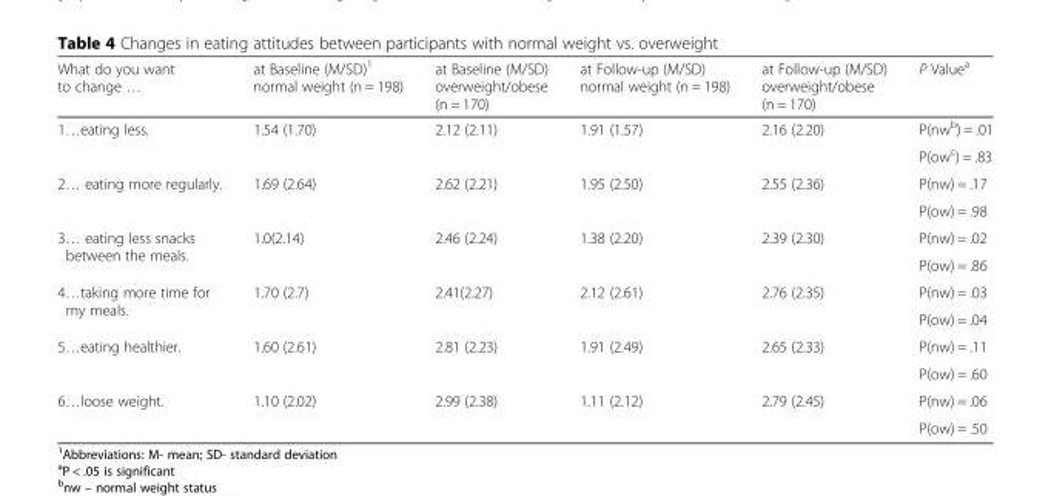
<table><thead><tr><td>What do you want to change …</td><td>at Baseline (M/SD)<sup>1</sup> normal weight (n = 198)</td><td>at Baseline (M/SD) overweight/obese (n = 170)</td><td>at Follow-up (M/SD) normal weight (n = 198)</td><td>at Follow-up (M/SD) overweight/obese (n = 170)</td><td>P Value<sup>a</sup></td></tr></thead><tbody><tr><td rowspan="2">1…eating less.</td><td rowspan="2">1.54 (1.70)</td><td rowspan="2">2.12 (2.11)</td><td rowspan="2">1.91 (1.57)</td><td rowspan="2">2.16 (2.20)</td><td>P(nw<sup>b</sup>) = .01</td></tr><tr><td>P(ow<sup>c</sup>) = .83</td></tr><tr><td rowspan="2">2… eating more regularly.</td><td rowspan="2">1.69 (2.64)</td><td rowspan="2">2.62 (2.21)</td><td rowspan="2">1.95 (2.50)</td><td rowspan="2">2.55 (2.36)</td><td>P(nw) = .17</td></tr><tr><td>P(ow) = .98</td></tr><tr><td rowspan="2">3… eating less snacks between the meals.</td><td rowspan="2">1.0(2.14)</td><td rowspan="2">2.46 (2.24)</td><td rowspan="2">1.38 (2.20)</td><td rowspan="2">2.39 (2.30)</td><td>P(nw) = .02</td></tr><tr><td>P(ow) = .86</td></tr><tr><td rowspan="2">4…taking more time for my meals.</td><td rowspan="2">1.70 (2.7)</td><td rowspan="2">2.41(2.27)</td><td rowspan="2">2.12 (2.61)</td><td rowspan="2">2.76 (2.35)</td><td>P(nw) = .03</td></tr><tr><td>P(ow) = .04</td></tr><tr><td rowspan="2">5…eating healthier.</td><td rowspan="2">1.60 (2.61)</td><td rowspan="2">2.81 (2.23)</td><td rowspan="2">1.91 (2.49)</td><td rowspan="2">2.65 (2.33)</td><td>P(nw) = .11</td></tr><tr><td>P(ow) = .60</td></tr><tr><td rowspan="2">6…loose weight.</td><td rowspan="2">1.10 (2.02)</td><td rowspan="2">2.99 (2.38)</td><td rowspan="2">1.11 (2.12)</td><td rowspan="2">2.79 (2.45)</td><td>P(nw) = .06</td></tr><tr><td>P(ow) = .50</td></tr></tbody></table>